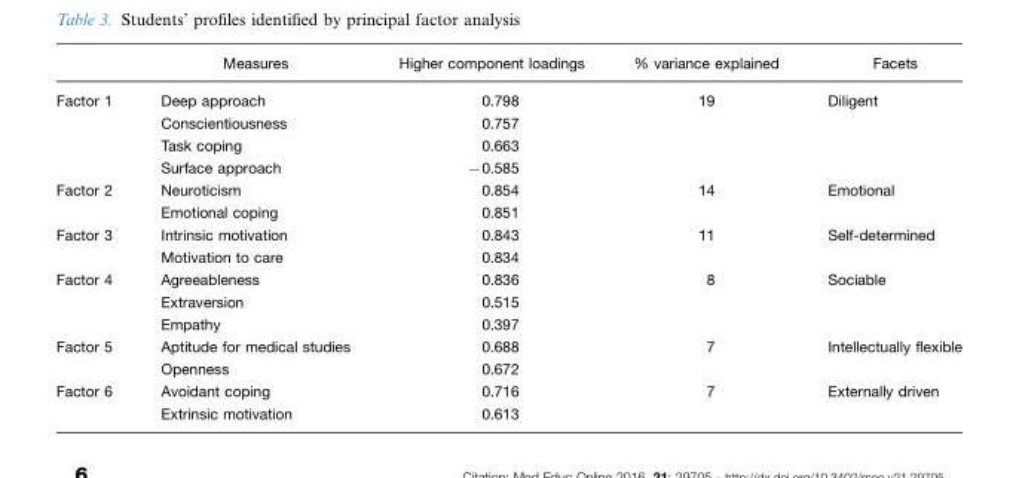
<table><thead><tr><td></td><td>Measures</td><td>Higher component loadings</td><td>% variance explained</td><td>Facets</td></tr></thead><tbody><tr><td rowspan="4">Factor 1</td><td>Deep approach</td><td>0.798</td><td>19</td><td>Diligent</td></tr><tr><td>Conscientiousness</td><td>0.757</td><td></td><td></td></tr><tr><td>Task coping</td><td>0.663</td><td></td><td></td></tr><tr><td>Surface approach</td><td>−0.585</td><td></td><td></td></tr><tr><td rowspan="2">Factor 2</td><td>Neuroticism</td><td>0.854</td><td>14</td><td>Emotional</td></tr><tr><td>Emotional coping</td><td>0.851</td><td></td><td></td></tr><tr><td rowspan="2">Factor 3</td><td>Intrinsic motivation</td><td>0.843</td><td>11</td><td>Self-determined</td></tr><tr><td>Motivation to care</td><td>0.834</td><td></td><td></td></tr><tr><td rowspan="3">Factor 4</td><td>Agreeableness</td><td>0.836</td><td>8</td><td>Sociable</td></tr><tr><td>Extraversion</td><td>0.515</td><td></td><td></td></tr><tr><td>Empathy</td><td>0.397</td><td></td><td></td></tr><tr><td rowspan="2">Factor 5</td><td>Aptitude for medical studies</td><td>0.688</td><td>7</td><td>Intellectually flexible</td></tr><tr><td>Openness</td><td>0.672</td><td></td><td></td></tr><tr><td rowspan="2">Factor 6</td><td>Avoidant coping</td><td>0.716</td><td>7</td><td>Externally driven</td></tr><tr><td>Extrinsic motivation</td><td>0.613</td><td></td><td></td></tr></tbody></table>